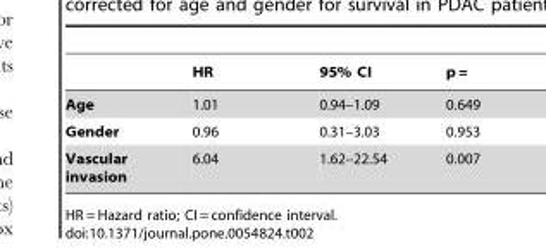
<table><thead><tr><td></td><td>HR</td><td>95% CI</td><td>p =</td></tr></thead><tbody><tr><td>Age</td><td>1.01</td><td>0.94–1.09</td><td>0.649</td></tr><tr><td>Gender</td><td>0.96</td><td>0.31–3.03</td><td>0.953</td></tr><tr><td>Vascular invasion</td><td>6.04</td><td>1.62–22.54</td><td>0.007</td></tr></tbody></table>